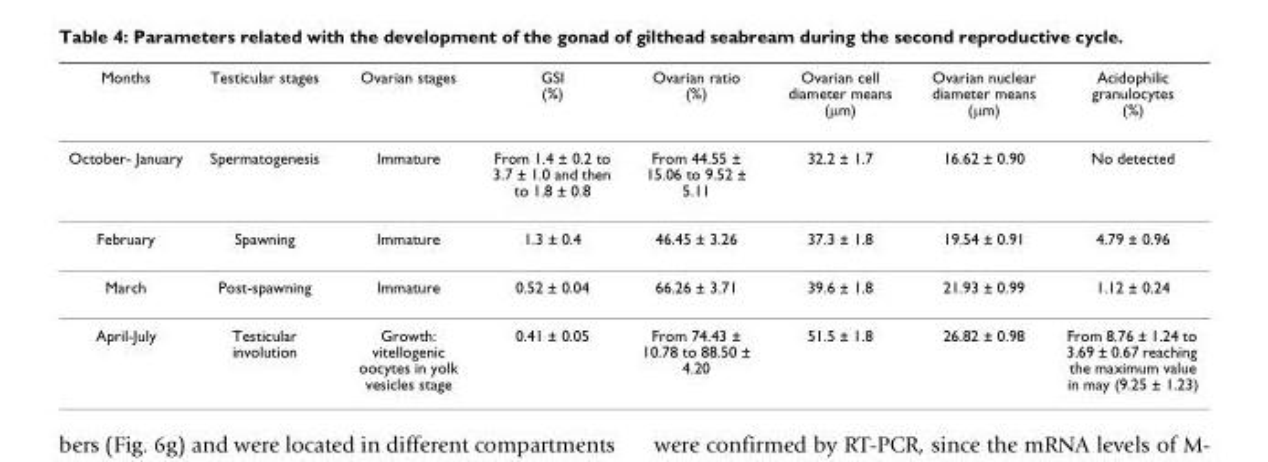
<table><thead><tr><td>Months</td><td>Testicular stages</td><td>Ovarian stages</td><td>GSI (%)</td><td>Ovarian ratio (%)</td><td>Ovarian cell diameter means (μm)</td><td>Ovarian nuclear diameter means (μm)</td><td>Acidophilic granulocytes (%)</td></tr></thead><tbody><tr><td>October- January</td><td>Spermatogenesis</td><td>Immature</td><td>From 1.4 ± 0.2 to 3.7 ± 1.0 and then to 1.8 ± 0.8</td><td>From 44.55 ± 15.06 to 9.52 ± 5.11</td><td>32.2 ± 1.7</td><td>16.62 ± 0.90</td><td>No detected</td></tr><tr><td>February</td><td>Spawning</td><td>Immature</td><td>1.3 ± 0.4</td><td>46.45 ± 3.26</td><td>37.3 ± 1.8</td><td>19.54 ± 0.91</td><td>4.79 ± 0.96</td></tr><tr><td>March</td><td>Post-spawning</td><td>Immature</td><td>0.52 ± 0.04</td><td>66.26 ± 3.71</td><td>39.6 ± 1.8</td><td>21.93 ± 0.99</td><td>1.12 ± 0.24</td></tr><tr><td>April-July</td><td>Testicular involution</td><td>Growth: vitellogenic oocytes in yolk vesicles stage</td><td>0.41 ± 0.05</td><td>From 74.43 ± 10.78 to 88.50 ± 4.20</td><td>51.5 ± 1.8</td><td>26.82 ± 0.98</td><td>From 8.76 ± 1.24 to 3.69 ± 0.67 reaching the maximum value in may (9.25 ± 1.23)</td></tr></tbody></table>